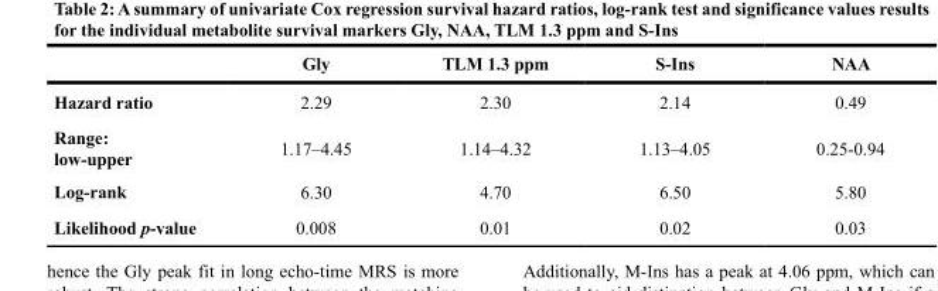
<table><thead><tr><td></td><td>Gly</td><td>TLM 1.3 ppm</td><td>S-Ins</td><td>NAA</td></tr></thead><tbody><tr><td>Hazard ratio</td><td>2.29</td><td>2.30</td><td>2.14</td><td>0.49</td></tr><tr><td>Range: low-upper</td><td>1.17–4.45</td><td>1.14–4.32</td><td>1.13–4.05</td><td>0.25-0.94</td></tr><tr><td>Log-rank</td><td>6.30</td><td>4.70</td><td>6.50</td><td>5.80</td></tr><tr><td>Likelihood p-value</td><td>0.008</td><td>0.01</td><td>0.02</td><td>0.03</td></tr></tbody></table>